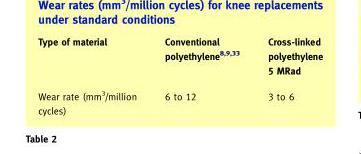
<table><thead><tr><td>Type of material</td><td>Conventional polyethylene<sup>8,9,33</sup></td><td>Cross-linked polyethylene 5 MRad</td></tr></thead><tbody><tr><td>Wear rate (mm<sup>3</sup>/million cycles)</td><td>6 to 12</td><td>3 to 6</td></tr></tbody></table>